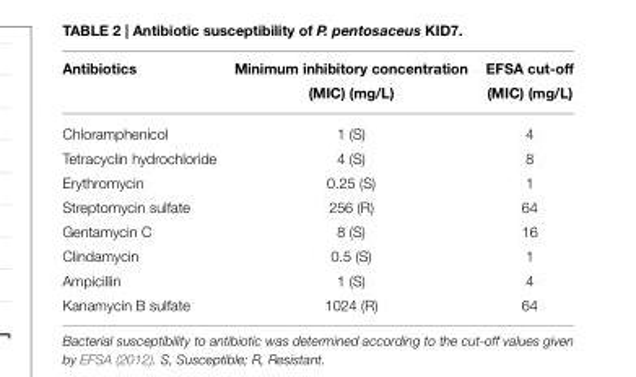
<table><thead><tr><td>Antibiotics</td><td>Minimum inhibitory concentration (MIC) (mg/L)</td><td>EFSA cut-off (MIC) (mg/L)</td></tr></thead><tbody><tr><td>Chloramphenicol</td><td>1 (S)</td><td>4</td></tr><tr><td>Tetracyclin hydrochloride</td><td>4 (S)</td><td>8</td></tr><tr><td>Erythromycin</td><td>0.25 (S)</td><td>1</td></tr><tr><td>Streptomycin sulfate</td><td>256 (R)</td><td>64</td></tr><tr><td>Gentamycin C</td><td>8 (S)</td><td>16</td></tr><tr><td>Clindamycin</td><td>0.5 (S)</td><td>1</td></tr><tr><td>Ampicillin</td><td>1 (S)</td><td>4</td></tr><tr><td>Kanamycin B sulfate</td><td>1024 (R)</td><td>64</td></tr></tbody></table>